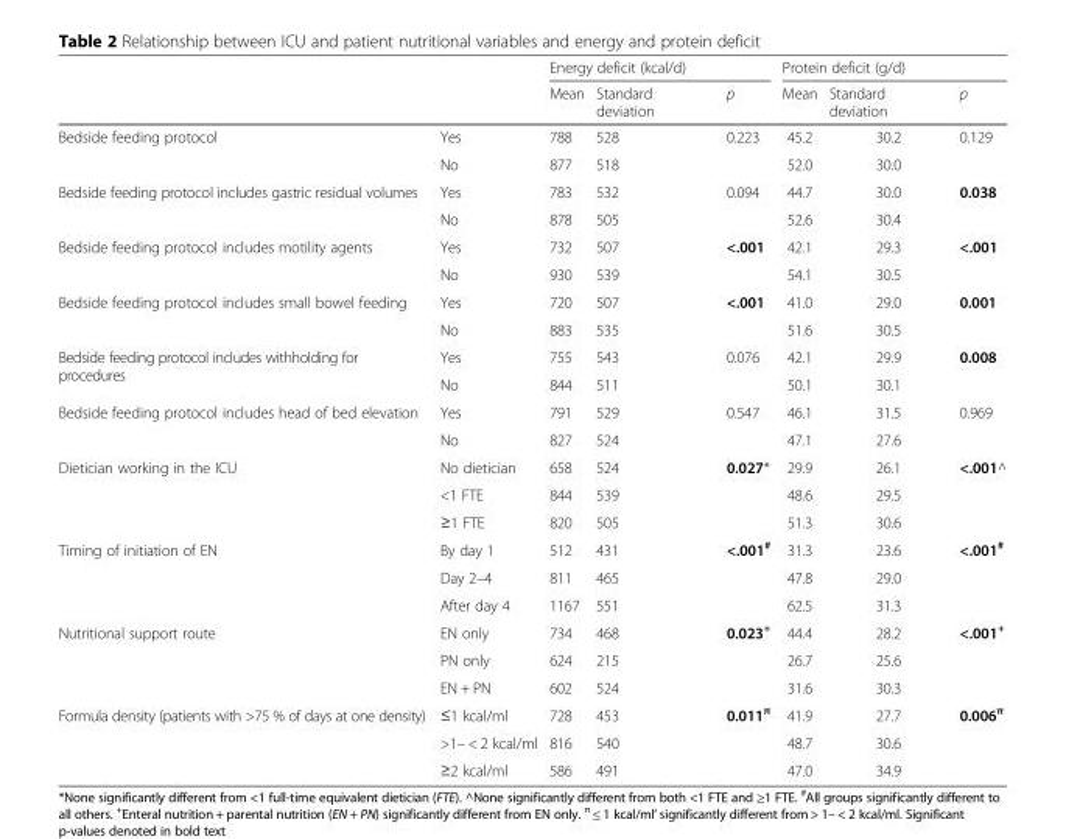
<table><thead><tr><td rowspan="2"></td><td rowspan="2"></td><td colspan="3">Energy deficit (kcal/d)</td><td colspan="3">Protein deficit (g/d)</td></tr><tr><td>Mean</td><td>Standard deviation</td><td>p</td><td>Mean</td><td>Standard deviation</td><td>p</td></tr></thead><tbody><tr><td rowspan="2">Bedside feeding protocol</td><td>Yes</td><td>788</td><td>528</td><td rowspan="2">0.223</td><td>45.2</td><td>30.2</td><td rowspan="2">0.129</td></tr><tr><td>No</td><td>877</td><td>518</td><td>52.0</td><td>30.0</td></tr><tr><td rowspan="2">Bedside feeding protocol includes gastric residual volumes</td><td>Yes</td><td>783</td><td>532</td><td rowspan="2">0.094</td><td>44.7</td><td>30.0</td><td rowspan="2">0.038</td></tr><tr><td>No</td><td>878</td><td>505</td><td>52.6</td><td>30.4</td></tr><tr><td rowspan="2">Bedside feeding protocol includes motility agents</td><td>Yes</td><td>732</td><td>507</td><td rowspan="2">&lt;.001</td><td>42.1</td><td>29.3</td><td rowspan="2">&lt;.001</td></tr><tr><td>No</td><td>930</td><td>539</td><td>54.1</td><td>30.5</td></tr><tr><td rowspan="2">Bedside feeding protocol includes small bowel feeding</td><td>Yes</td><td>720</td><td>507</td><td rowspan="2">&lt;.001</td><td>41.0</td><td>29.0</td><td rowspan="2">0.001</td></tr><tr><td>No</td><td>883</td><td>535</td><td>51.6</td><td>30.5</td></tr><tr><td rowspan="2">Bedside feeding protocol includes withholding for procedures</td><td>Yes</td><td>755</td><td>543</td><td rowspan="2">0.076</td><td>42.1</td><td>29.9</td><td rowspan="2">0.008</td></tr><tr><td>No</td><td>844</td><td>511</td><td>50.1</td><td>30.1</td></tr><tr><td rowspan="2">Bedside feeding protocol includes head of bed elevation</td><td>Yes</td><td>791</td><td>529</td><td rowspan="2">0.547</td><td>46.1</td><td>31.5</td><td rowspan="2">0.969</td></tr><tr><td>No</td><td>827</td><td>524</td><td>47.1</td><td>27.6</td></tr><tr><td rowspan="3">Dietician working in the ICU</td><td>No dietician</td><td>658</td><td>524</td><td rowspan="3">0.027*</td><td>29.9</td><td>26.1</td><td rowspan="3">&lt;.001^</td></tr><tr><td>&lt;1 FTE</td><td>844</td><td>539</td><td>48.6</td><td>29.5</td></tr><tr><td>≥1 FTE</td><td>820</td><td>505</td><td>51.3</td><td>30.6</td></tr><tr><td rowspan="3">Timing of initiation of EN</td><td>By day 1</td><td>512</td><td>431</td><td rowspan="3">&lt;.001<sup>#</sup></td><td>31.3</td><td>23.6</td><td rowspan="3">&lt;.001<sup>#</sup></td></tr><tr><td>Day 2–4</td><td>811</td><td>465</td><td>47.8</td><td>29.0</td></tr><tr><td>After day 4</td><td>1167</td><td>551</td><td>62.5</td><td>31.3</td></tr><tr><td rowspan="3">Nutritional support route</td><td>EN only</td><td>734</td><td>468</td><td rowspan="3">0.023<sup>+</sup></td><td>44.4</td><td>28.2</td><td rowspan="3">&lt;.001<sup>+</sup></td></tr><tr><td>PN only</td><td>624</td><td>215</td><td>26.7</td><td>25.6</td></tr><tr><td>EN + PN</td><td>602</td><td>524</td><td>31.6</td><td>30.3</td></tr><tr><td rowspan="3">Formula density (patients with &gt;75 % of days at one density)</td><td>≤1 kcal/ml</td><td>728</td><td>453</td><td rowspan="3">0.011<sup>π</sup></td><td>41.9</td><td>27.7</td><td rowspan="3">0.006<sup>π</sup></td></tr><tr><td>&gt;1– &lt; 2 kcal/ml</td><td>816</td><td>540</td><td>48.7</td><td>30.6</td></tr><tr><td>≥2 kcal/ml</td><td>586</td><td>491</td><td>47.0</td><td>34.9</td></tr></tbody></table>